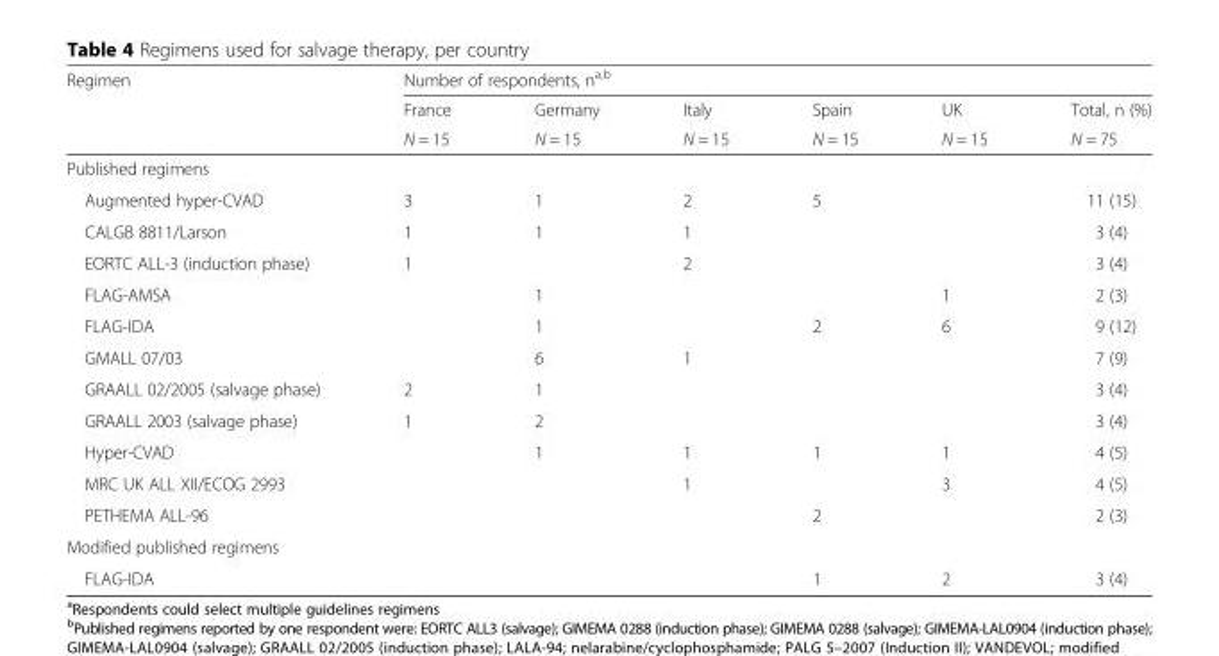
<table><thead><tr><td rowspan="3">Regimen</td><td colspan="6">Number of respondents, n<sup>a,b</sup></td></tr><tr><td rowspan="2">France N = 15</td><td rowspan="2">Germany N = 15</td><td rowspan="2">Italy N = 15</td><td rowspan="2">Spain N = 15</td><td rowspan="2">UK N = 15</td><td rowspan="2">Total, n (%) N = 75</td></tr><tr></tr></thead><tbody><tr><td colspan="7">Published regimens</td></tr><tr><td>Augmented hyper-CVAD</td><td>3</td><td>1</td><td>2</td><td>5</td><td></td><td>11 (15)</td></tr><tr><td>CALGB 8811/Larson</td><td>1</td><td>1</td><td>1</td><td></td><td></td><td>3 (4)</td></tr><tr><td>EORTC ALL-3 (induction phase)</td><td>1</td><td></td><td>2</td><td></td><td></td><td>3 (4)</td></tr><tr><td>FLAG-AMSA</td><td></td><td>1</td><td></td><td></td><td>1</td><td>2 (3)</td></tr><tr><td>FLAG-IDA</td><td></td><td>1</td><td></td><td>2</td><td>6</td><td>9 (12)</td></tr><tr><td>GMALL 07/03</td><td></td><td>6</td><td>1</td><td></td><td></td><td>7 (9)</td></tr><tr><td>GRAALL 02/2005 (salvage phase)</td><td>2</td><td>1</td><td></td><td></td><td></td><td>3 (4)</td></tr><tr><td>GRAALL 2003 (salvage phase)</td><td>1</td><td>2</td><td></td><td></td><td></td><td>3 (4)</td></tr><tr><td>Hyper-CVAD</td><td></td><td>1</td><td>1</td><td>1</td><td>1</td><td>4 (5)</td></tr><tr><td>MRC UK ALL XII/ECOG 2993</td><td></td><td></td><td>1</td><td></td><td>3</td><td>4 (5)</td></tr><tr><td>PETHEMA ALL-96</td><td></td><td></td><td></td><td>2</td><td></td><td>2 (3)</td></tr><tr><td colspan="7">Modified published regimens</td></tr><tr><td>FLAG-IDA</td><td></td><td></td><td></td><td>1</td><td>2</td><td>3 (4)</td></tr></tbody></table>